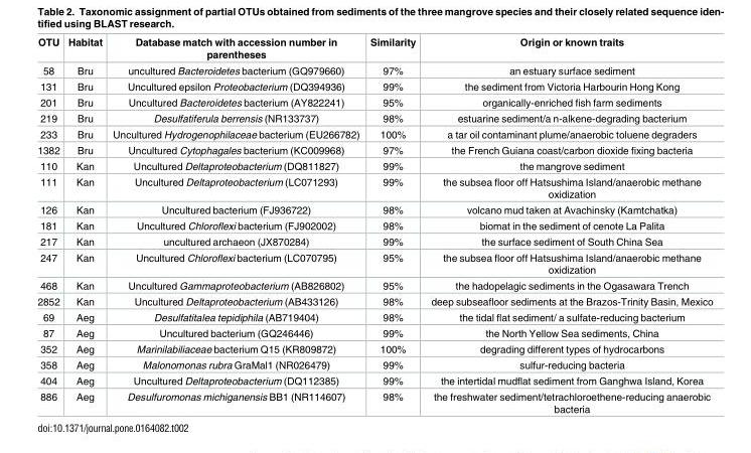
<table><thead><tr><td>OTU</td><td>Habitat</td><td>Database match with accession number in parentheses</td><td>Similarity</td><td>Origin or known traits</td></tr></thead><tbody><tr><td>58</td><td>Bru</td><td>uncultured Bacteroidetes bacterium (GQ979660)</td><td>97%</td><td>an estuary surface sediment</td></tr><tr><td>131</td><td>Bru</td><td>Uncultured epsilon Proteobacterium (DQ394936)</td><td>99%</td><td>the sediment from Victoria Harbourin Hong Kong</td></tr><tr><td>201</td><td>Bru</td><td>Uncultured Bacteroidetes bacterium (AY822241)</td><td>95%</td><td>organically-enriched fish farm sediments</td></tr><tr><td>219</td><td>Bru</td><td>Desulfatiferula berrensis (NR133737)</td><td>98%</td><td>estuarine sediment/a n-alkene-degrading bacterium</td></tr><tr><td>233</td><td>Bru</td><td>Uncultured Hydrogenophilaceae bacterium (EU266782)</td><td>100%</td><td>a tar oil contaminant plume/anaerobic toluene degraders</td></tr><tr><td>1382</td><td>Bru</td><td>Uncultured Cytophagales bacterium (KC009968)</td><td>97%</td><td>the French Guiana coast/carbon dioxide fixing bacteria</td></tr><tr><td>110</td><td>Kan</td><td>Uncultured Deltaproteobacterium (DQ811827)</td><td>99%</td><td>the mangrove sediment</td></tr><tr><td>111</td><td>Kan</td><td>Uncultured Deltaproteobacterium (LC071293)</td><td>99%</td><td>the subsea floor off Hatsushima Island/anaerobic methane oxidization</td></tr><tr><td>126</td><td>Kan</td><td>Uncultured bacterium (FJ936722)</td><td>98%</td><td>volcano mud taken at Avachinsky (Kamtchatka)</td></tr><tr><td>181</td><td>Kan</td><td>Uncultured Chloroflexi bacterium (FJ902002)</td><td>98%</td><td>biomat in the sediment of cenote La Palita</td></tr><tr><td>217</td><td>Kan</td><td>uncultured archaeon (JX870284)</td><td>99%</td><td>the surface sediment of South China Sea</td></tr><tr><td>247</td><td>Kan</td><td>Uncultured Chloroflexi bacterium (LC070795)</td><td>95%</td><td>the subsea floor off Hatsushima Island/anaerobic methane oxidization</td></tr><tr><td>468</td><td>Kan</td><td>Uncultured Gammaproteobacterium (AB826802)</td><td>95%</td><td>the hadopelagic sediments in the Ogasawara Trench</td></tr><tr><td>2852</td><td>Kan</td><td>Uncultured Deltaproteobacterium (AB433126)</td><td>98%</td><td>deep subseafloor sediments at the Brazos-Trinity Basin, Mexico</td></tr><tr><td>69</td><td>Aeg</td><td>Desulfatitalea tepidiphila (AB719404)</td><td>98%</td><td>the tidal flat sediment/ a sulfate-reducing bacterium</td></tr><tr><td>87</td><td>Aeg</td><td>Uncultured bacterium (GQ246446)</td><td>99%</td><td>the North Yellow Sea sediments, China</td></tr><tr><td>352</td><td>Aeg</td><td>Marinilabiliaceae bacterium Q15 (KR809872)</td><td>100%</td><td>degrading different types of hydrocarbons</td></tr><tr><td>358</td><td>Aeg</td><td>Malonomonas rubra GraMal1 (NR026479)</td><td>99%</td><td>sulfur-reducing bacteria</td></tr><tr><td>404</td><td>Aeg</td><td>Uncultured Deltaproteobacterium (DQ112385)</td><td>99%</td><td>the intertidal mudflat sediment from Ganghwa Island, Korea</td></tr><tr><td>886</td><td>Aeg</td><td>Desulfuromonas michiganensis BB1 (NR114607)</td><td>98%</td><td>the freshwater sediment/tetrachloroethene-reducing anaerobic bacteria</td></tr></tbody></table>